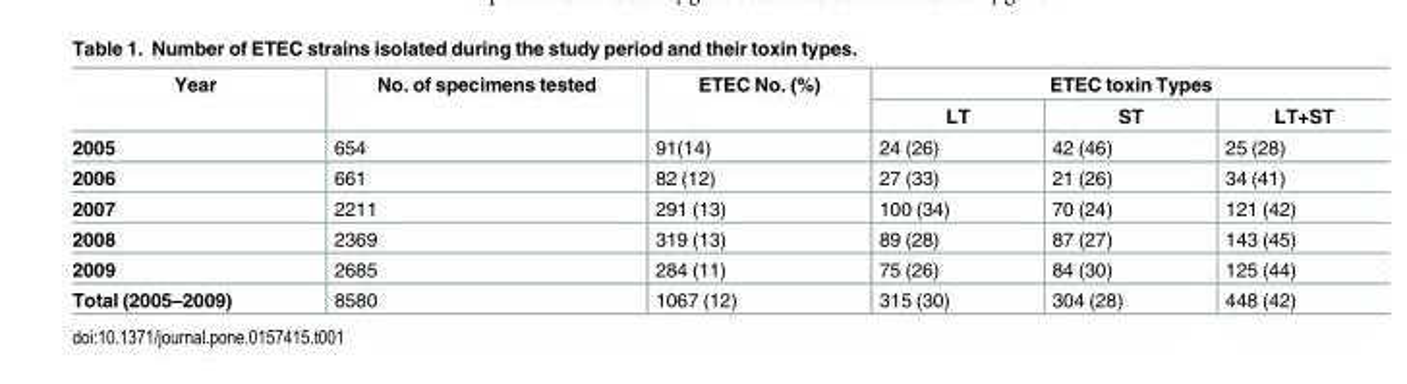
<table><thead><tr><td rowspan="2">Year</td><td rowspan="2">No. of specimens tested</td><td rowspan="2">ETEC No. (%)</td><td colspan="3">ETEC toxin Types</td></tr><tr><td>LT</td><td>ST</td><td>LT+ST</td></tr></thead><tbody><tr><td>2005</td><td>654</td><td>91(14)</td><td>24 (26)</td><td>42 (46)</td><td>25 (28)</td></tr><tr><td>2006</td><td>661</td><td>82 (12)</td><td>27 (33)</td><td>21 (26)</td><td>34 (41)</td></tr><tr><td>2007</td><td>2211</td><td>291 (13)</td><td>100 (34)</td><td>70 (24)</td><td>121 (42)</td></tr><tr><td>2008</td><td>2369</td><td>319 (13)</td><td>89 (28)</td><td>87 (27)</td><td>143 (45)</td></tr><tr><td>2009</td><td>2685</td><td>284 (11)</td><td>75 (26)</td><td>84 (30)</td><td>125 (44)</td></tr><tr><td>Total (2005–2009)</td><td>8580</td><td>1067 (12)</td><td>315 (30)</td><td>304 (28)</td><td>448 (42)</td></tr></tbody></table>